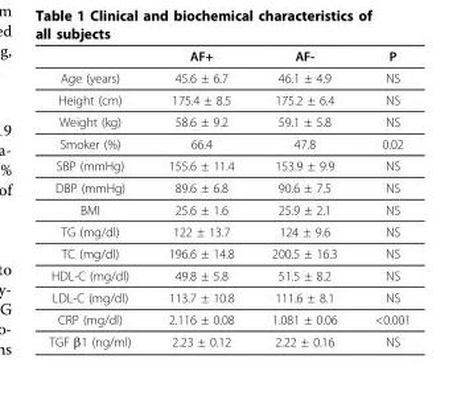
<table><thead><tr><td></td><td>AF+</td><td>AF-</td><td>P</td></tr></thead><tbody><tr><td>Age (years)</td><td>45.6 ± 6.7</td><td>46.1 ± 4.9</td><td>NS</td></tr><tr><td>Height (cm)</td><td>175.4 ± 8.5</td><td>175.2 ± 6.4</td><td>NS</td></tr><tr><td>Weight (kg)</td><td>58.6 ± 9.2</td><td>59.1 ± 5.8</td><td>NS</td></tr><tr><td>Smoker (%)</td><td>66.4</td><td>47.8</td><td>0.02</td></tr><tr><td>SBP (mmHg)</td><td>155.6 ± 11.4</td><td>153.9 ± 9.9</td><td>NS</td></tr><tr><td>DBP (mmHg)</td><td>89.6 ± 6.8</td><td>90.6 ± 7.5</td><td>NS</td></tr><tr><td>BMI</td><td>25.6 ± 1.6</td><td>25.9 ± 2.1</td><td>NS</td></tr><tr><td>TG (mg/dl)</td><td>122 ± 13.7</td><td>124 ± 9.6</td><td>NS</td></tr><tr><td>TC (mg/dl)</td><td>196.6 ± 14.8</td><td>200.5 ± 16.3</td><td>NS</td></tr><tr><td>HDL-C (mg/dl)</td><td>49.8 ± 5.8</td><td>51.5 ± 8.2</td><td>NS</td></tr><tr><td>LDL-C (mg/dl)</td><td>113.7 ± 10.8</td><td>111.6 ± 8.1</td><td>NS</td></tr><tr><td>CRP (mg/dl)</td><td>2.116 ± 0.08</td><td>1.081 ± 0.06</td><td>&lt;0.001</td></tr><tr><td>TGF β1 (ng/ml)</td><td>2.23 ± 0.12</td><td>2.22 ± 0.16</td><td>NS</td></tr></tbody></table>